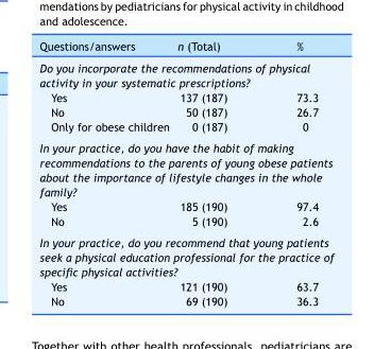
<table><thead><tr><td>Questions/answers</td><td>n (Total)</td><td>%</td></tr></thead><tbody><tr><td colspan="3">Do you incorporate the recommendations of physical activity in your systematic prescriptions?</td></tr><tr><td>Yes</td><td>137 (187)</td><td>73.3</td></tr><tr><td>No</td><td>50 (187)</td><td>26.7</td></tr><tr><td>Only for obese children</td><td>0 (187)</td><td>0</td></tr><tr><td colspan="3">In your practice, do you have the habit of making recommendations to the parents of young obese patients about the importance of lifestyle changes in the whole family?</td></tr><tr><td>Yes</td><td>185 (190)</td><td>97.4</td></tr><tr><td>No</td><td>5 (190)</td><td>2.6</td></tr><tr><td colspan="3">In your practice, do you recommend that young patients seek a physical education professional for the practice of specific physical activities?</td></tr><tr><td>Yes</td><td>121 (190)</td><td>63.7</td></tr><tr><td>No</td><td>69 (190)</td><td>36.3</td></tr></tbody></table>